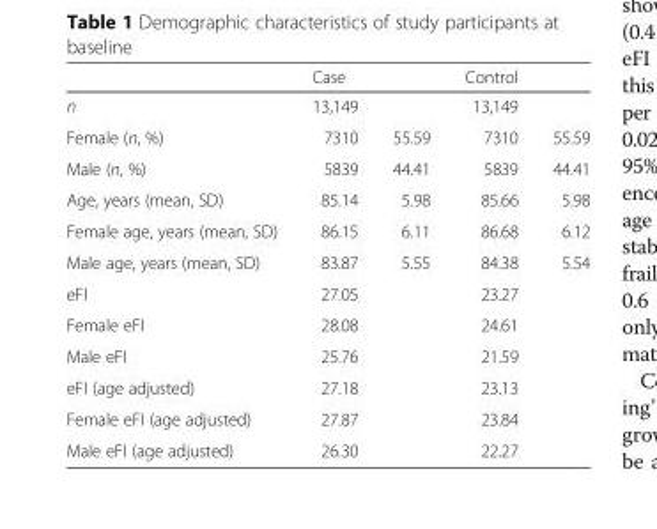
<table><thead><tr><td></td><td>Case</td><td></td><td>Control</td><td></td></tr></thead><tbody><tr><td>n</td><td>13,149</td><td></td><td>13,149</td><td></td></tr><tr><td>Female (n, %)</td><td>7310</td><td>55.59</td><td>7310</td><td>55.59</td></tr><tr><td>Male (n, %)</td><td>5839</td><td>44.41</td><td>5839</td><td>44.41</td></tr><tr><td>Age, years (mean, SD)</td><td>85.14</td><td>5.98</td><td>85.66</td><td>5.98</td></tr><tr><td>Female age, years (mean, SD)</td><td>86.15</td><td>6.11</td><td>86.68</td><td>6.12</td></tr><tr><td>Male age, years (mean, SD)</td><td>83.87</td><td>5.55</td><td>84.38</td><td>5.54</td></tr><tr><td>eFI</td><td>27.05</td><td></td><td>23.27</td><td></td></tr><tr><td>Female eFI</td><td>28.08</td><td></td><td>24.61</td><td></td></tr><tr><td>Male eFI</td><td>25.76</td><td></td><td>21.59</td><td></td></tr><tr><td>eFI (age adjusted)</td><td>27.18</td><td></td><td>23.13</td><td></td></tr><tr><td>Female eFI (age adjusted)</td><td>27.87</td><td></td><td>23.84</td><td></td></tr><tr><td>Male eFI (age adjusted)</td><td>26.30</td><td></td><td>22.27</td><td></td></tr></tbody></table>